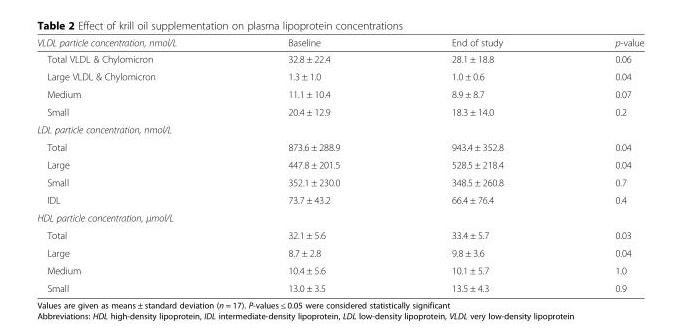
<table><thead><tr><td>VLDL particle concentration, nmol/L</td><td>Baseline</td><td>End of study</td><td>p-value</td></tr></thead><tbody><tr><td>Total VLDL &amp; Chylomicron</td><td>32.8 ± 22.4</td><td>28.1 ± 18.8</td><td>0.06</td></tr><tr><td>Large VLDL &amp; Chylomicron</td><td>1.3 ± 1.0</td><td>1.0 ± 0.6</td><td>0.04</td></tr><tr><td>Medium</td><td>11.1 ± 10.4</td><td>8.9 ± 8.7</td><td>0.07</td></tr><tr><td>Small</td><td>20.4 ± 12.9</td><td>18.3 ± 14.0</td><td>0.2</td></tr><tr><td colspan="4">LDL particle concentration, nmol/L</td></tr><tr><td>Total</td><td>873.6 ± 288.9</td><td>943.4 ± 352.8</td><td>0.04</td></tr><tr><td>Large</td><td>447.8 ± 201.5</td><td>528.5 ± 218.4</td><td>0.04</td></tr><tr><td>Small</td><td>352.1 ± 230.0</td><td>348.5 ± 260.8</td><td>0.7</td></tr><tr><td>IDL</td><td>73.7 ± 43.2</td><td>66.4 ± 76.4</td><td>0.4</td></tr><tr><td colspan="4">HDL particle concentration, μmol/L</td></tr><tr><td>Total</td><td>32.1 ± 5.6</td><td>33.4 ± 5.7</td><td>0.03</td></tr><tr><td>Large</td><td>8.7 ± 2.8</td><td>9.8 ± 3.6</td><td>0.04</td></tr><tr><td>Medium</td><td>10.4 ± 5.6</td><td>10.1 ± 5.7</td><td>1.0</td></tr><tr><td>Small</td><td>13.0 ± 3.5</td><td>13.5 ± 4.3</td><td>0.9</td></tr></tbody></table>